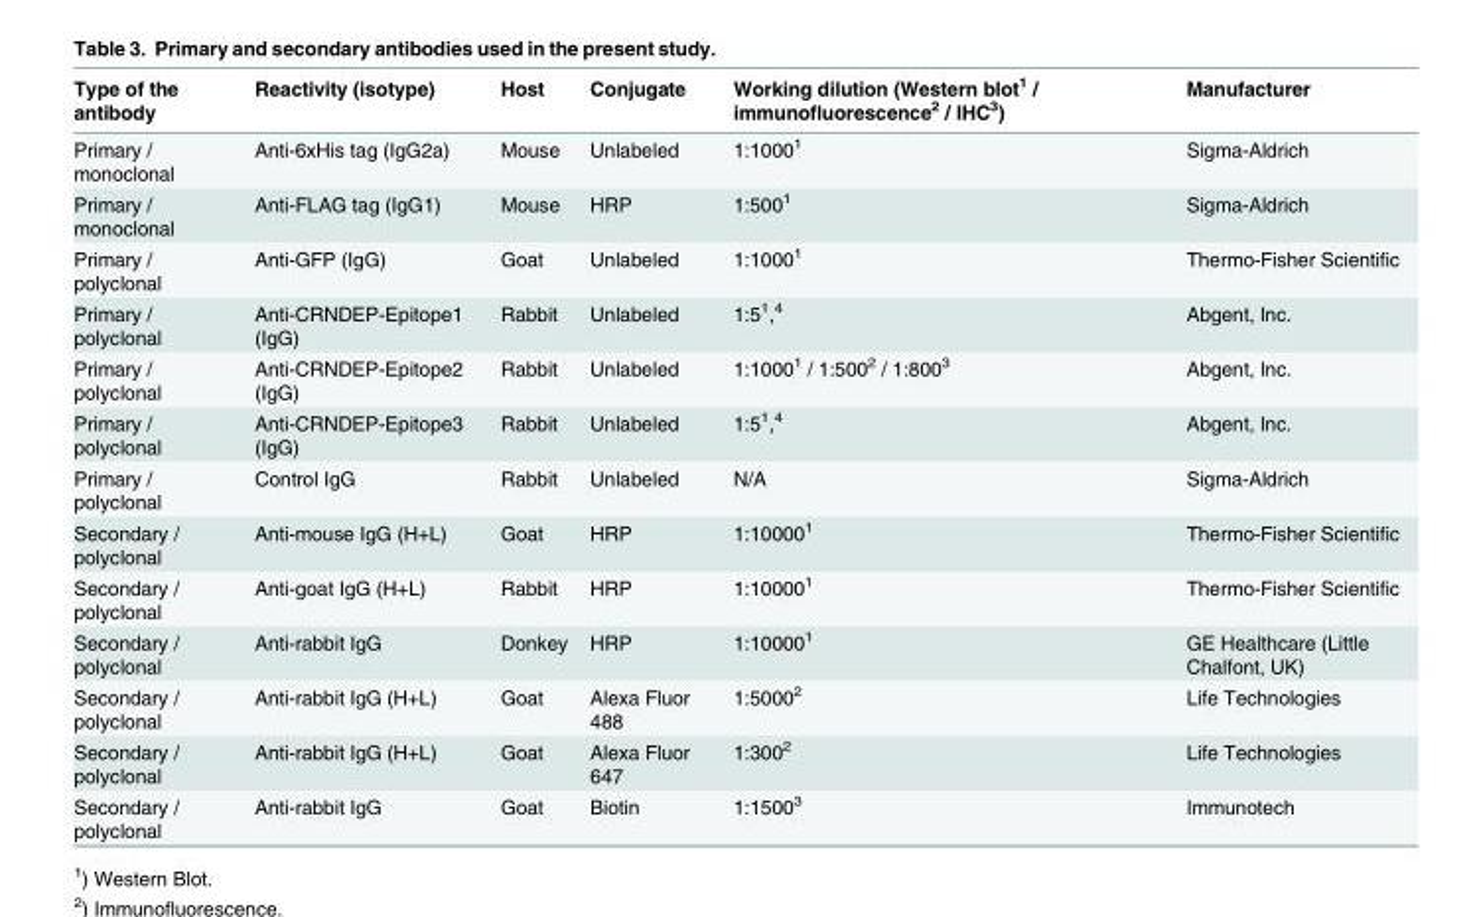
<table><thead><tr><td>Type of the antibody</td><td>Reactivity (isotype)</td><td>Host</td><td>Conjugate</td><td>Working dilution (Western blot<sup>1</sup> / immunofluorescence<sup>2</sup> / IHC<sup>3</sup>)</td><td>Manufacturer</td></tr></thead><tbody><tr><td>Primary / monoclonal</td><td>Anti-6xHis tag (IgG2a)</td><td>Mouse</td><td>Unlabeled</td><td>1:1000<sup>1</sup></td><td>Sigma-Aldrich</td></tr><tr><td>Primary / monoclonal</td><td>Anti-FLAG tag (IgG1)</td><td>Mouse</td><td>HRP</td><td>1:500<sup>1</sup></td><td>Sigma-Aldrich</td></tr><tr><td>Primary / polyclonal</td><td>Anti-GFP (IgG)</td><td>Goat</td><td>Unlabeled</td><td>1:1000<sup>1</sup></td><td>Thermo-Fisher Scientific</td></tr><tr><td>Primary / polyclonal</td><td>Anti-CRNDEP-Epitope1 (IgG)</td><td>Rabbit</td><td>Unlabeled</td><td>1:5<sup>1</sup>,<sup>4</sup></td><td>Abgent, Inc.</td></tr><tr><td>Primary / polyclonal</td><td>Anti-CRNDEP-Epitope2 (IgG)</td><td>Rabbit</td><td>Unlabeled</td><td>1:1000<sup>1</sup> / 1:500<sup>2</sup> / 1:800<sup>3</sup></td><td>Abgent, Inc.</td></tr><tr><td>Primary / polyclonal</td><td>Anti-CRNDEP-Epitope3 (IgG)</td><td>Rabbit</td><td>Unlabeled</td><td>1:5<sup>1</sup>,<sup>4</sup></td><td>Abgent, Inc.</td></tr><tr><td>Primary / polyclonal</td><td>Control IgG</td><td>Rabbit</td><td>Unlabeled</td><td>N/A</td><td>Sigma-Aldrich</td></tr><tr><td>Secondary / polyclonal</td><td>Anti-mouse IgG (H+L)</td><td>Goat</td><td>HRP</td><td>1:10000<sup>1</sup></td><td>Thermo-Fisher Scientific</td></tr><tr><td>Secondary / polyclonal</td><td>Anti-goat IgG (H+L)</td><td>Rabbit</td><td>HRP</td><td>1:10000<sup>1</sup></td><td>Thermo-Fisher Scientific</td></tr><tr><td>Secondary / polyclonal</td><td>Anti-rabbit IgG</td><td>Donkey</td><td>HRP</td><td>1:10000<sup>1</sup></td><td>GE Healthcare (Little Chalfont, UK)</td></tr><tr><td>Secondary / polyclonal</td><td>Anti-rabbit IgG (H+L)</td><td>Goat</td><td>Alexa Fluor 488</td><td>1:5000<sup>2</sup></td><td>Life Technologies</td></tr><tr><td>Secondary / polyclonal</td><td>Anti-rabbit IgG (H+L)</td><td>Goat</td><td>Alexa Fluor 647</td><td>1:300<sup>2</sup></td><td>Life Technologies</td></tr><tr><td>Secondary / polyclonal</td><td>Anti-rabbit IgG</td><td>Goat</td><td>Biotin</td><td>1:1500<sup>3</sup></td><td>Immunotech</td></tr></tbody></table>